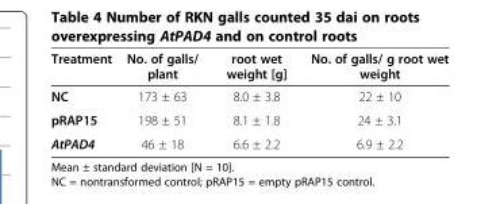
<table><thead><tr><td>Treatment</td><td>No. of galls/ plant</td><td>root wet weight [g]</td><td>No. of galls/ g root wet weight</td></tr></thead><tbody><tr><td>NC</td><td>173 ± 63</td><td>8.0 ± 3.8</td><td>22 ± 10</td></tr><tr><td>pRAP15</td><td>198 ± 51</td><td>8.1 ± 1.8</td><td>24 ± 3.1</td></tr><tr><td>AtPAD4</td><td>46 ± 18</td><td>6.6 ± 2.2</td><td>6.9 ± 2.2</td></tr></tbody></table>